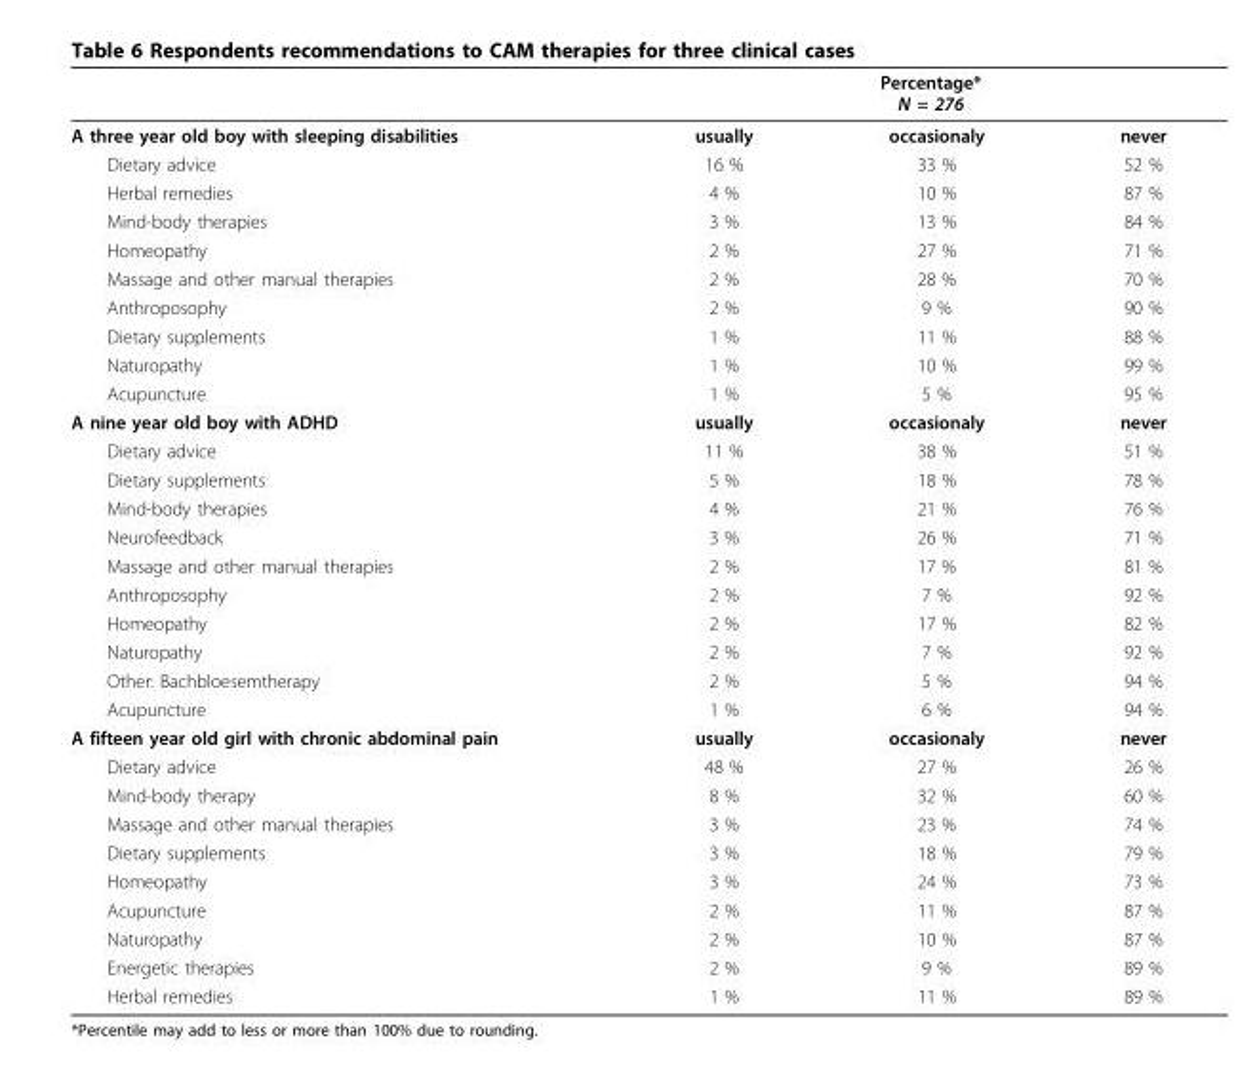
<table><thead><tr><td rowspan="2">A three year old boy with sleeping disabilities</td><td colspan="3">Percentage* N = 276</td></tr><tr><td>usually</td><td>occasionaly</td><td>never</td></tr></thead><tbody><tr><td>Dietary advice</td><td>16 %</td><td>33 %</td><td>52 %</td></tr><tr><td>Herbal remedies</td><td>4 %</td><td>10 %</td><td>87 %</td></tr><tr><td>Mind-body therapies</td><td>3 %</td><td>13 %</td><td>84 %</td></tr><tr><td>Homeopathy</td><td>2 %</td><td>27 %</td><td>71 %</td></tr><tr><td>Massage and other manual therapies</td><td>2 %</td><td>28 %</td><td>70 %</td></tr><tr><td>Anthroposophy</td><td>2 %</td><td>9 %</td><td>90 %</td></tr><tr><td>Dietary supplements</td><td>1 %</td><td>11 %</td><td>88 %</td></tr><tr><td>Naturopathy</td><td>1 %</td><td>10 %</td><td>99 %</td></tr><tr><td>Acupuncture</td><td>1 %</td><td>5 %</td><td>95 %</td></tr><tr><td>A nine year old boy with ADHD</td><td>usually</td><td>occasionaly</td><td>never</td></tr><tr><td>Dietary advice</td><td>11 %</td><td>38 %</td><td>51 %</td></tr><tr><td>Dietary supplements</td><td>5 %</td><td>18 %</td><td>78 %</td></tr><tr><td>Mind-body therapies</td><td>4 %</td><td>21 %</td><td>76 %</td></tr><tr><td>Neurofeedback</td><td>3 %</td><td>26 %</td><td>71 %</td></tr><tr><td>Massage and other manual therapies</td><td>2 %</td><td>17 %</td><td>81 %</td></tr><tr><td>Anthroposophy</td><td>2 %</td><td>7 %</td><td>92 %</td></tr><tr><td>Homeopathy</td><td>2 %</td><td>17 %</td><td>82 %</td></tr><tr><td>Naturopathy</td><td>2 %</td><td>7 %</td><td>92 %</td></tr><tr><td>Other: Bachbloesemtherapy</td><td>2 %</td><td>5 %</td><td>94 %</td></tr><tr><td>Acupuncture</td><td>1 %</td><td>6 %</td><td>94 %</td></tr><tr><td>A fifteen year old girl with chronic abdominal pain</td><td>usually</td><td>occasionaly</td><td>never</td></tr><tr><td>Dietary advice</td><td>48 %</td><td>27 %</td><td>26 %</td></tr><tr><td>Mind-body therapy</td><td>8 %</td><td>32 %</td><td>60 %</td></tr><tr><td>Massage and other manual therapies</td><td>3 %</td><td>23 %</td><td>74 %</td></tr><tr><td>Dietary supplements</td><td>3 %</td><td>18 %</td><td>79 %</td></tr><tr><td>Homeopathy</td><td>3 %</td><td>24 %</td><td>73 %</td></tr><tr><td>Acupuncture</td><td>2 %</td><td>11 %</td><td>87 %</td></tr><tr><td>Naturopathy</td><td>2 %</td><td>10 %</td><td>87 %</td></tr><tr><td>Energetic therapies</td><td>2 %</td><td>9 %</td><td>89 %</td></tr><tr><td>Herbal remedies</td><td>1 %</td><td>11 %</td><td>89 %</td></tr></tbody></table>